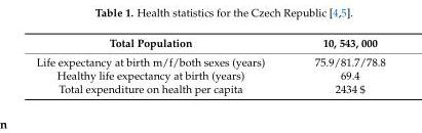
<table><thead><tr><td>Total Population</td><td>10, 543, 000</td></tr></thead><tbody><tr><td>Life expectancy at birth m/f/both sexes (years)</td><td>75.9/81.7/78.8</td></tr><tr><td>Healthy life expectancy at birth (years)</td><td>69.4</td></tr><tr><td>Total expenditure on health per capita</td><td>2434 $</td></tr></tbody></table>